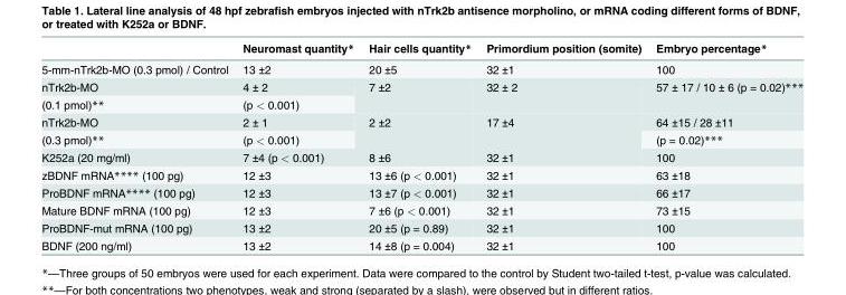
<table><thead><tr><td></td><td>Neuromast quantity*</td><td>Hair cells quantity*</td><td>Primordium position (somite)</td><td>Embryo percentage*</td></tr></thead><tbody><tr><td>5-mm-nTrk2b-MO (0.3 pmol) / Control</td><td>13 ±2</td><td>20 ±5</td><td>32 ±1</td><td>100</td></tr><tr><td>nTrk2b-MO</td><td>4 ± 2</td><td rowspan="2">7 ±2</td><td rowspan="2">32 ± 2</td><td rowspan="2">57 ± 17 / 10 ± 6 (p = 0.02)***</td></tr><tr><td>(0.1 pmol)**</td><td>(p &lt; 0.001)</td></tr><tr><td>nTrk2b-MO</td><td>2 ± 1</td><td rowspan="2">2 ±2</td><td rowspan="2">17 ±4</td><td>64 ±15 / 28 ±11</td></tr><tr><td>(0.3 pmol)**</td><td>(p &lt; 0.001)</td><td>(p = 0.02)***</td></tr><tr><td>K252a (20 mg/ml)</td><td>7 ±4 (p &lt; 0.001)</td><td>8 ±6</td><td>32 ±1</td><td>100</td></tr><tr><td>zBDNF mRNA**** (100 pg)</td><td>12 ±3</td><td>13 ±6 (p &lt; 0.001)</td><td>32 ±1</td><td>63 ±18</td></tr><tr><td>ProBDNF mRNA**** (100 pg)</td><td>12 ±3</td><td>13 ±7 (p &lt; 0.001)</td><td>32 ±1</td><td>66 ±17</td></tr><tr><td>Mature BDNF mRNA (100 pg)</td><td>12 ±3</td><td>7 ±6 (p &lt; 0.001)</td><td>32 ±1</td><td>73 ±15</td></tr><tr><td>ProBDNF-mut mRNA (100 pg)</td><td>13 ±2</td><td>20 ±5 (p = 0.89)</td><td>32 ±1</td><td>100</td></tr><tr><td>BDNF (200 ng/ml)</td><td>13 ±2</td><td>14 ±8 (p = 0.004)</td><td>32 ±1</td><td>100</td></tr></tbody></table>